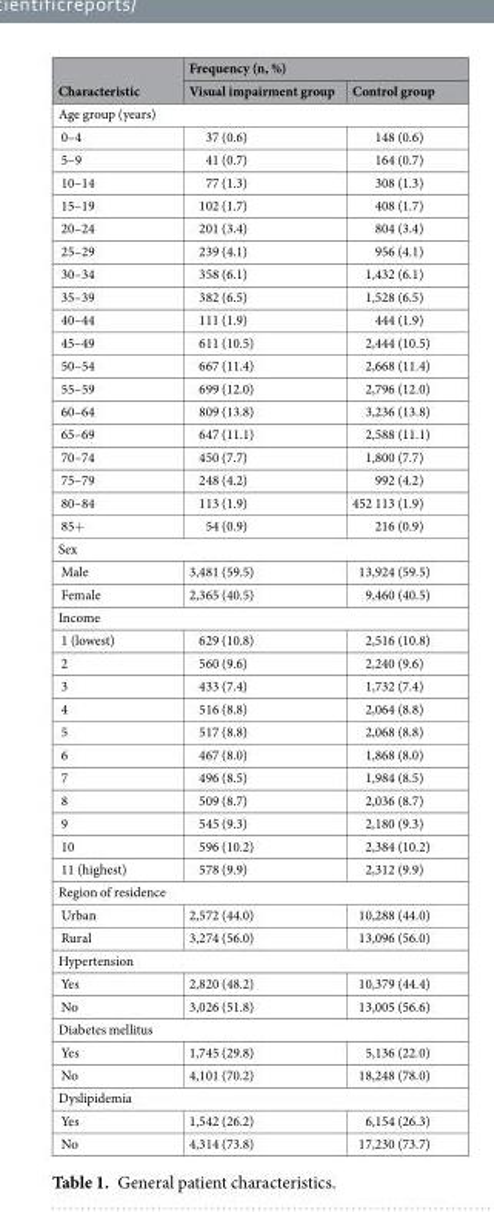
<table><thead><tr><td rowspan="2">Characteristic</td><td colspan="2">Frequency (n, %)</td></tr><tr><td>Visual impairment group</td><td>Control group</td></tr></thead><tbody><tr><td colspan="3">Age group (years)</td></tr><tr><td>0–4</td><td>37 (0.6)</td><td>148 (0.6)</td></tr><tr><td>5–9</td><td>41 (0.7)</td><td>164 (0.7)</td></tr><tr><td>10–14</td><td>77 (1.3)</td><td>308 (1.3)</td></tr><tr><td>15–19</td><td>102 (1.7)</td><td>408 (1.7)</td></tr><tr><td>20–24</td><td>201 (3.4)</td><td>804 (3.4)</td></tr><tr><td>25–29</td><td>239 (4.1)</td><td>956 (4.1)</td></tr><tr><td>30–34</td><td>358 (6.1)</td><td>1,432 (6.1)</td></tr><tr><td>35–39</td><td>382 (6.5)</td><td>1,528 (6.5)</td></tr><tr><td>40–44</td><td>111 (1.9)</td><td>444 (1.9)</td></tr><tr><td>45–49</td><td>611 (10.5)</td><td>2,444 (10.5)</td></tr><tr><td>50–54</td><td>667 (11.4)</td><td>2,668 (11.4)</td></tr><tr><td>55–59</td><td>699 (12.0)</td><td>2,796 (12.0)</td></tr><tr><td>60–64</td><td>809 (13.8)</td><td>3,236 (13.8)</td></tr><tr><td>65–69</td><td>647 (11.1)</td><td>2,588 (11.1)</td></tr><tr><td>70–74</td><td>450 (7.7)</td><td>1,800 (7.7)</td></tr><tr><td>75–79</td><td>248 (4.2)</td><td>992 (4.2)</td></tr><tr><td>80–84</td><td>113 (1.9)</td><td>452 113 (1.9)</td></tr><tr><td>85+</td><td>54 (0.9)</td><td>216 (0.9)</td></tr><tr><td colspan="3">Sex</td></tr><tr><td>Male</td><td>3,481 (59.5)</td><td>13,924 (59.5)</td></tr><tr><td>Female</td><td>2,365 (40.5)</td><td>9,460 (40.5)</td></tr><tr><td colspan="3">Income</td></tr><tr><td>1 (lowest)</td><td>629 (10.8)</td><td>2,516 (10.8)</td></tr><tr><td>2</td><td>560 (9.6)</td><td>2,240 (9.6)</td></tr><tr><td>3</td><td>433 (7.4)</td><td>1,732 (7.4)</td></tr><tr><td>4</td><td>516 (8.8)</td><td>2,064 (8.8)</td></tr><tr><td>5</td><td>517 (8.8)</td><td>2,068 (8.8)</td></tr><tr><td>6</td><td>467 (8.0)</td><td>1,868 (8.0)</td></tr><tr><td>7</td><td>496 (8.5)</td><td>1,984 (8.5)</td></tr><tr><td>8</td><td>509 (8.7)</td><td>2,036 (8.7)</td></tr><tr><td>9</td><td>545 (9.3)</td><td>2,180 (9.3)</td></tr><tr><td>10</td><td>596 (10.2)</td><td>2,384 (10.2)</td></tr><tr><td>11 (highest)</td><td>578 (9.9)</td><td>2,312 (9.9)</td></tr><tr><td colspan="3">Region of residence</td></tr><tr><td>Urban</td><td>2,572 (44.0)</td><td>10,288 (44.0)</td></tr><tr><td>Rural</td><td>3,274 (56.0)</td><td>13,096 (56.0)</td></tr><tr><td colspan="3">Hypertension</td></tr><tr><td>Yes</td><td>2,820 (48.2)</td><td>10,379 (44.4)</td></tr><tr><td>No</td><td>3,026 (51.8)</td><td>13,005 (56.6)</td></tr><tr><td colspan="3">Diabetes mellitus</td></tr><tr><td>Yes</td><td>1,745 (29.8)</td><td>5,136 (22.0)</td></tr><tr><td>No</td><td>4,101 (70.2)</td><td>18,248 (78.0)</td></tr><tr><td colspan="3">Dyslipidemia</td></tr><tr><td>Yes</td><td>1,542 (26.2)</td><td>6,154 (26.3)</td></tr><tr><td>No</td><td>4,314 (73.8)</td><td>17,230 (73.7)</td></tr></tbody></table>